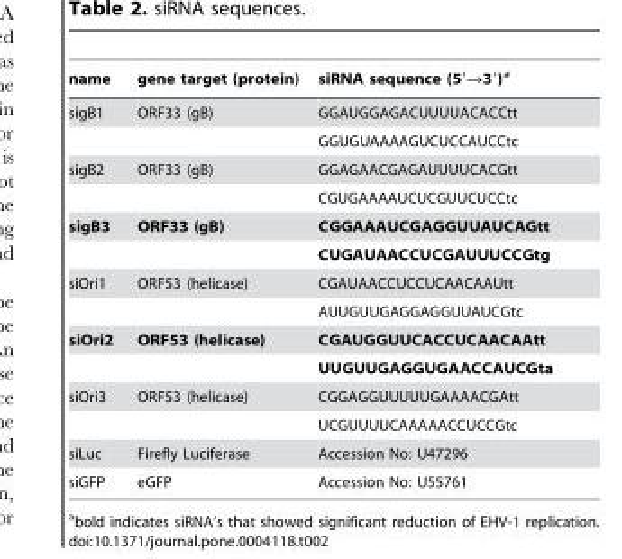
<table><thead><tr><td>name</td><td>gene target (protein)</td><td>siRNA sequence (5′→3′)<sup>a</sup></td></tr></thead><tbody><tr><td rowspan="2">sigB1</td><td>ORF33 (gB)</td><td>GGAUGGAGACUUUUACACCtt</td></tr><tr><td></td><td>GGUGUAAAAGUCUCCAUCCtc</td></tr><tr><td rowspan="2">sigB2</td><td>ORF33 (gB)</td><td>GGAGAACGAGAUUUUCACGtt</td></tr><tr><td></td><td>CGUGAAAAUCUCGUUCUCCtc</td></tr><tr><td rowspan="2">sigB3</td><td>ORF33 (gB)</td><td>CGGAAAUCGAGGUUAUCAGtt</td></tr><tr><td></td><td>CUGAUAACCUCGAUUUCCGtg</td></tr><tr><td rowspan="2">siOri1</td><td>ORF53 (helicase)</td><td>CGAUAACCUCCUCAACAAUtt</td></tr><tr><td></td><td>AUUGUUGAGGAGGUUAUCGtc</td></tr><tr><td rowspan="2">siOri2</td><td>ORF53 (helicase)</td><td>CGAUGGUUCACCUCAACAAtt</td></tr><tr><td></td><td>UUGUUGAGGUGAACCAUCGta</td></tr><tr><td rowspan="2">siOri3</td><td>ORF53 (helicase)</td><td>CGGAGGUUUUUGAAAACGAtt</td></tr><tr><td></td><td>UCGUUUUCAAAAACCUCCGtc</td></tr><tr><td>siLuc</td><td>Firefly Luciferase</td><td>Accession No: U47296</td></tr><tr><td>siGFP</td><td>eGFP</td><td>Accession No: U55761</td></tr></tbody></table>